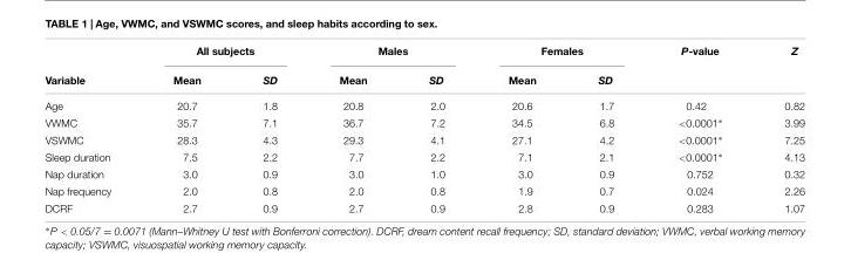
<table><thead><tr><td rowspan="2">Variable</td><td colspan="2">All subjects</td><td colspan="2">Males</td><td colspan="2">Females</td><td rowspan="2">P-value</td><td rowspan="2">Z</td></tr><tr><td>Mean</td><td>SD</td><td>Mean</td><td>SD</td><td>Mean</td><td>SD</td></tr></thead><tbody><tr><td>Age</td><td>20.7</td><td>1.8</td><td>20.8</td><td>2.0</td><td>20.6</td><td>1.7</td><td>0.42</td><td>0.82</td></tr><tr><td>VWMC</td><td>35.7</td><td>7.1</td><td>36.7</td><td>7.2</td><td>34.5</td><td>6.8</td><td>&lt;0.0001∗</td><td>3.99</td></tr><tr><td>VSWMC</td><td>28.3</td><td>4.3</td><td>29.3</td><td>4.1</td><td>27.1</td><td>4.2</td><td>&lt;0.0001∗</td><td>7.25</td></tr><tr><td>Sleep duration</td><td>7.5</td><td>2.2</td><td>7.7</td><td>2.2</td><td>7.1</td><td>2.1</td><td>&lt;0.0001∗</td><td>4.13</td></tr><tr><td>Nap duration</td><td>3.0</td><td>0.9</td><td>3.0</td><td>1.0</td><td>3.0</td><td>0.9</td><td>0.752</td><td>0.32</td></tr><tr><td>Nap frequency</td><td>2.0</td><td>0.8</td><td>2.0</td><td>0.8</td><td>1.9</td><td>0.7</td><td>0.024</td><td>2.26</td></tr><tr><td>DCRF</td><td>2.7</td><td>0.9</td><td>2.7</td><td>0.9</td><td>2.8</td><td>0.9</td><td>0.283</td><td>1.07</td></tr></tbody></table>